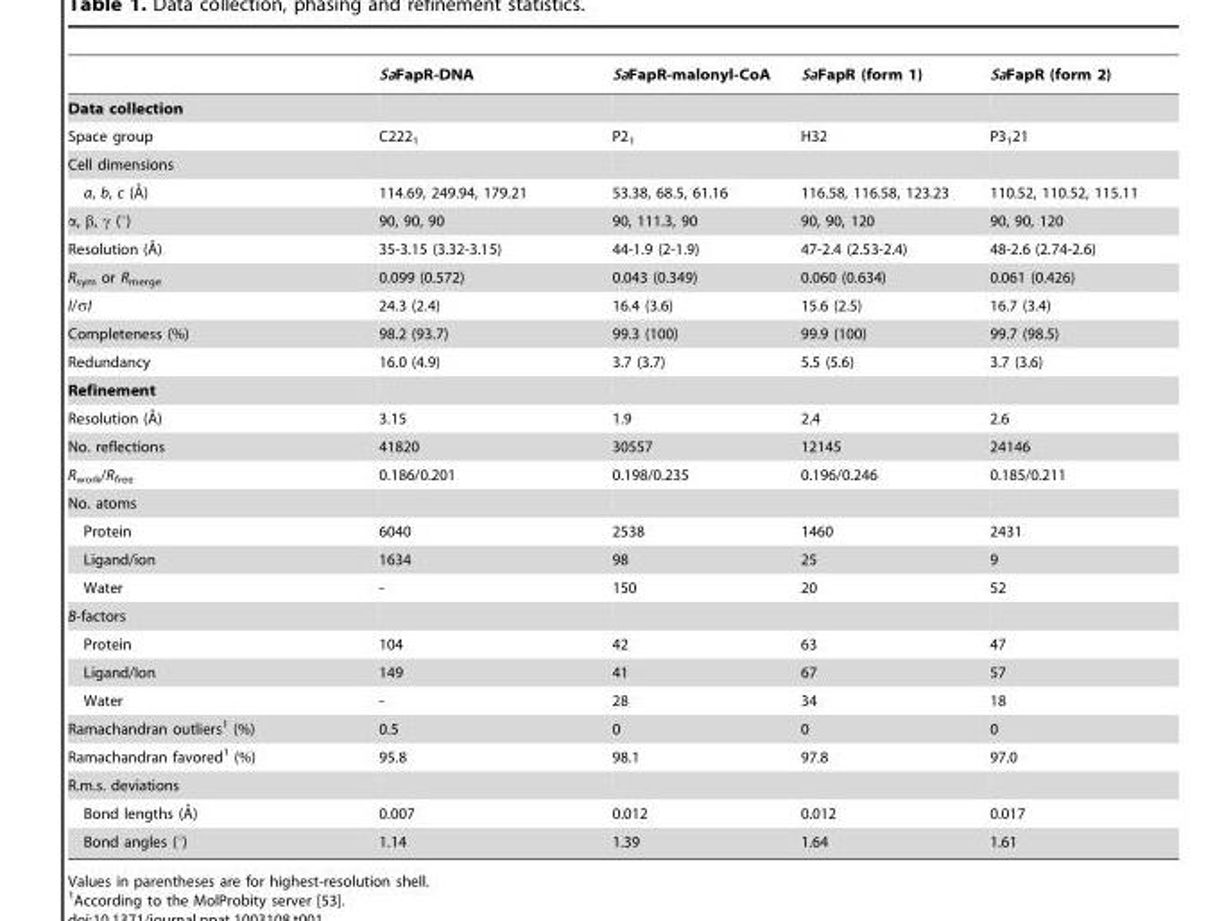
<table><thead><tr><td></td><td>SaFapR-DNA</td><td>SaFapR-malonyl-CoA</td><td>SaFapR (form 1)</td><td>SaFapR (form 2)</td></tr></thead><tbody><tr><td colspan="5">Data collection</td></tr><tr><td>Space group</td><td>C222<sub>1</sub></td><td>P2<sub>1</sub></td><td>H32</td><td>P3<sub>1</sub>21</td></tr><tr><td colspan="5">Cell dimensions</td></tr><tr><td>a, b, c (A˚)</td><td>114.69, 249.94, 179.21</td><td>53.38, 68.5, 61.16</td><td>116.58, 116.58, 123.23</td><td>110.52, 110.52, 115.11</td></tr><tr><td>α, β, γ (°)</td><td>90, 90, 90</td><td>90, 111.3, 90</td><td>90, 90, 120</td><td>90, 90, 120</td></tr><tr><td>Resolution (A˚)</td><td>35-3.15 (3.32-3.15)</td><td>44-1.9 (2-1.9)</td><td>47-2.4 (2.53-2.4)</td><td>48-2.6 (2.74-2.6)</td></tr><tr><td>R<sub>sym</sub> or R<sub>merge</sub></td><td>0.099 (0.572)</td><td>0.043 (0.349)</td><td>0.060 (0.634)</td><td>0.061 (0.426)</td></tr><tr><td>I/σI</td><td>24.3 (2.4)</td><td>16.4 (3.6)</td><td>15.6 (2.5)</td><td>16.7 (3.4)</td></tr><tr><td>Completeness (%)</td><td>98.2 (93.7)</td><td>99.3 (100)</td><td>99.9 (100)</td><td>99.7 (98.5)</td></tr><tr><td>Redundancy</td><td>16.0 (4.9)</td><td>3.7 (3.7)</td><td>5.5 (5.6)</td><td>3.7 (3.6)</td></tr><tr><td colspan="5">Refinement</td></tr><tr><td>Resolution (A˚)</td><td>3.15</td><td>1.9</td><td>2.4</td><td>2.6</td></tr><tr><td>No. reflections</td><td>41820</td><td>30557</td><td>12145</td><td>24146</td></tr><tr><td>R<sub>work</sub>/R<sub>free</sub></td><td>0.186/0.201</td><td>0.198/0.235</td><td>0.196/0.246</td><td>0.185/0.211</td></tr><tr><td colspan="5">No. atoms</td></tr><tr><td>Protein</td><td>6040</td><td>2538</td><td>1460</td><td>2431</td></tr><tr><td>Ligand/ion</td><td>1634</td><td>98</td><td>25</td><td>9</td></tr><tr><td>Water</td><td>-</td><td>150</td><td>20</td><td>52</td></tr><tr><td colspan="5">B-factors</td></tr><tr><td>Protein</td><td>104</td><td>42</td><td>63</td><td>47</td></tr><tr><td>Ligand/Ion</td><td>149</td><td>41</td><td>67</td><td>57</td></tr><tr><td>Water</td><td>-</td><td>28</td><td>34</td><td>18</td></tr><tr><td>Ramachandran outliers<sup>1</sup> (%)</td><td>0.5</td><td>0</td><td>0</td><td>0</td></tr><tr><td>Ramachandran favored<sup>1</sup> (%)</td><td>95.8</td><td>98.1</td><td>97.8</td><td>97.0</td></tr><tr><td colspan="5">R.m.s. deviations</td></tr><tr><td>Bond lengths (A˚)</td><td>0.007</td><td>0.012</td><td>0.012</td><td>0.017</td></tr><tr><td>Bond angles (°)</td><td>1.14</td><td>1.39</td><td>1.64</td><td>1.61</td></tr></tbody></table>